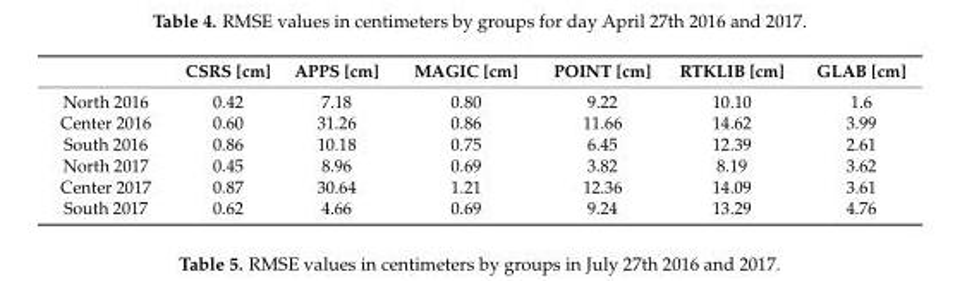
<table><thead><tr><td></td><td>CSRS [cm]</td><td>APPS [cm]</td><td>MAGIC [cm]</td><td>POINT [cm]</td><td>RTKLIB [cm]</td><td>GLAB [cm]</td></tr></thead><tbody><tr><td>North 2016</td><td>0.42</td><td>7.18</td><td>0.80</td><td>9.22</td><td>10.10</td><td>1.6</td></tr><tr><td>Center 2016</td><td>0.60</td><td>31.26</td><td>0.86</td><td>11.66</td><td>14.62</td><td>3.99</td></tr><tr><td>South 2016</td><td>0.86</td><td>10.18</td><td>0.75</td><td>6.45</td><td>12.39</td><td>2.61</td></tr><tr><td>North 2017</td><td>0.45</td><td>8.96</td><td>0.69</td><td>3.82</td><td>8.19</td><td>3.62</td></tr><tr><td>Center 2017</td><td>0.87</td><td>30.64</td><td>1.21</td><td>12.36</td><td>14.09</td><td>3.61</td></tr><tr><td>South 2017</td><td>0.62</td><td>4.66</td><td>0.69</td><td>9.24</td><td>13.29</td><td>4.76</td></tr></tbody></table>